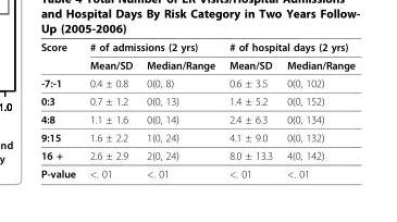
<table><thead><tr><td rowspan="2">Score</td><td colspan="2"># of admissions (2 yrs)</td><td colspan="2"># of hospital days (2 yrs)</td></tr><tr><td>Mean/SD</td><td>Median/Range</td><td>Mean/SD</td><td>Median/Range</td></tr></thead><tbody><tr><td>-7:-1</td><td>0.4 ± 0.8</td><td>0(0, 8)</td><td>0.6 ± 3.5</td><td>0(0, 102)</td></tr><tr><td>0:3</td><td>0.7 ± 1.2</td><td>0(0, 13)</td><td>1.4 ± 5.2</td><td>0(0, 152)</td></tr><tr><td>4:8</td><td>1.1 ± 1.6</td><td>0(0, 14)</td><td>2.4 ± 6.3</td><td>0(0, 134)</td></tr><tr><td>9:15</td><td>1.6 ± 2.2</td><td>1(0, 24)</td><td>4.1 ± 9.0</td><td>0(0, 132)</td></tr><tr><td>16 +</td><td>2.6 ± 2.9</td><td>2(0, 24)</td><td>8.0 ± 13.3</td><td>4(0, 142)</td></tr><tr><td>P-value</td><td>&lt;. 01</td><td>&lt;. 01</td><td>&lt;. 01</td><td>&lt;. 01</td></tr></tbody></table>